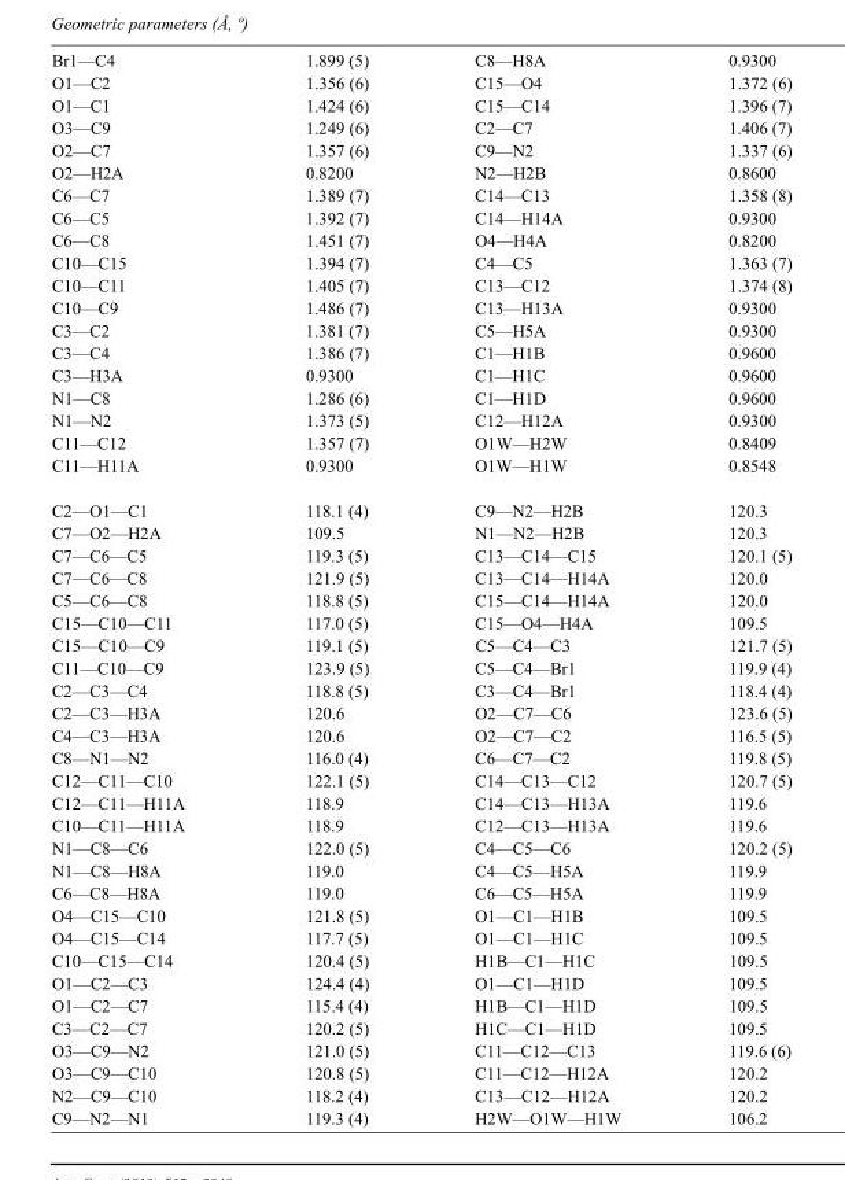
<table><tbody><tr><td>Br1—C4</td><td>1.899 (5)</td><td>C8—H8A</td><td>0.9300</td></tr><tr><td>O1—C2</td><td>1.356 (6)</td><td>C15—O4</td><td>1.372 (6)</td></tr><tr><td>O1—C1</td><td>1.424 (6)</td><td>C15—C14</td><td>1.396 (7)</td></tr><tr><td>O3—C9</td><td>1.249 (6)</td><td>C2—C7</td><td>1.406 (7)</td></tr><tr><td>O2—C7</td><td>1.357 (6)</td><td>C9—N2</td><td>1.337 (6)</td></tr><tr><td>O2—H2A</td><td>0.8200</td><td>N2—H2B</td><td>0.8600</td></tr><tr><td>C6—C7</td><td>1.389 (7)</td><td>C14—C13</td><td>1.358 (8)</td></tr><tr><td>C6—C5</td><td>1.392 (7)</td><td>C14—H14A</td><td>0.9300</td></tr><tr><td>C6—C8</td><td>1.451 (7)</td><td>O4—H4A</td><td>0.8200</td></tr><tr><td>C10—C15</td><td>1.394 (7)</td><td>C4—C5</td><td>1.363 (7)</td></tr><tr><td>C10—C11</td><td>1.405 (7)</td><td>C13—C12</td><td>1.374 (8)</td></tr><tr><td>C10—C9</td><td>1.486 (7)</td><td>C13—H13A</td><td>0.9300</td></tr><tr><td>C3—C2</td><td>1.381 (7)</td><td>C5—H5A</td><td>0.9300</td></tr><tr><td>C3—C4</td><td>1.386 (7)</td><td>C1—H1B</td><td>0.9600</td></tr><tr><td>C3—H3A</td><td>0.9300</td><td>C1—H1C</td><td>0.9600</td></tr><tr><td>N1—C8</td><td>1.286 (6)</td><td>C1—H1D</td><td>0.9600</td></tr><tr><td>N1—N2</td><td>1.373 (5)</td><td>C12—H12A</td><td>0.9300</td></tr><tr><td>C11—C12</td><td>1.357 (7)</td><td>O1W—H2W</td><td>0.8409</td></tr><tr><td>C11—H11A</td><td>0.9300</td><td>O1W—H1W</td><td>0.8548</td></tr><tr><td>C2—O1—C1</td><td>118.1 (4)</td><td>C9—N2—H2B</td><td>120.3</td></tr><tr><td>C7—O2—H2A</td><td>109.5</td><td>N1—N2—H2B</td><td>120.3</td></tr><tr><td>C7—C6—C5</td><td>119.3 (5)</td><td>C13—C14—C15</td><td>120.1 (5)</td></tr><tr><td>C7—C6—C8</td><td>121.9 (5)</td><td>C13—C14—H14A</td><td>120.0</td></tr><tr><td>C5—C6—C8</td><td>118.8 (5)</td><td>C15—C14—H14A</td><td>120.0</td></tr><tr><td>C15—C10—C11</td><td>117.0 (5)</td><td>C15—O4—H4A</td><td>109.5</td></tr><tr><td>C15—C10—C9</td><td>119.1 (5)</td><td>C5—C4—C3</td><td>121.7 (5)</td></tr><tr><td>C11—C10—C9</td><td>123.9 (5)</td><td>C5—C4—Br1</td><td>119.9 (4)</td></tr><tr><td>C2—C3—C4</td><td>118.8 (5)</td><td>C3—C4—Br1</td><td>118.4 (4)</td></tr><tr><td>C2—C3—H3A</td><td>120.6</td><td>O2—C7—C6</td><td>123.6 (5)</td></tr><tr><td>C4—C3—H3A</td><td>120.6</td><td>O2—C7—C2</td><td>116.5 (5)</td></tr><tr><td>C8—N1—N2</td><td>116.0 (4)</td><td>C6—C7—C2</td><td>119.8 (5)</td></tr><tr><td>C12—C11—C10</td><td>122.1 (5)</td><td>C14—C13—C12</td><td>120.7 (5)</td></tr><tr><td>C12—C11—H11A</td><td>118.9</td><td>C14—C13—H13A</td><td>119.6</td></tr><tr><td>C10—C11—H11A</td><td>118.9</td><td>C12—C13—H13A</td><td>119.6</td></tr><tr><td>N1—C8—C6</td><td>122.0 (5)</td><td>C4—C5—C6</td><td>120.2 (5)</td></tr><tr><td>N1—C8—H8A</td><td>119.0</td><td>C4—C5—H5A</td><td>119.9</td></tr><tr><td>C6—C8—H8A</td><td>119.0</td><td>C6—C5—H5A</td><td>119.9</td></tr><tr><td>O4—C15—C10</td><td>121.8 (5)</td><td>O1—C1—H1B</td><td>109.5</td></tr><tr><td>O4—C15—C14</td><td>117.7 (5)</td><td>O1—C1—H1C</td><td>109.5</td></tr><tr><td>C10—C15—C14</td><td>120.4 (5)</td><td>H1B—C1—H1C</td><td>109.5</td></tr><tr><td>O1—C2—C3</td><td>124.4 (4)</td><td>O1—C1—H1D</td><td>109.5</td></tr><tr><td>O1—C2—C7</td><td>115.4 (4)</td><td>H1B—C1—H1D</td><td>109.5</td></tr><tr><td>C3—C2—C7</td><td>120.2 (5)</td><td>H1C—C1—H1D</td><td>109.5</td></tr><tr><td>O3—C9—N2</td><td>121.0 (5)</td><td>C11—C12—C13</td><td>119.6 (6)</td></tr><tr><td>O3—C9—C10</td><td>120.8 (5)</td><td>C11—C12—H12A</td><td>120.2</td></tr><tr><td>N2—C9—C10</td><td>118.2 (4)</td><td>C13—C12—H12A</td><td>120.2</td></tr><tr><td>C9—N2—N1</td><td>119.3 (4)</td><td>H2W—O1W—H1W</td><td>106.2</td></tr></tbody></table>